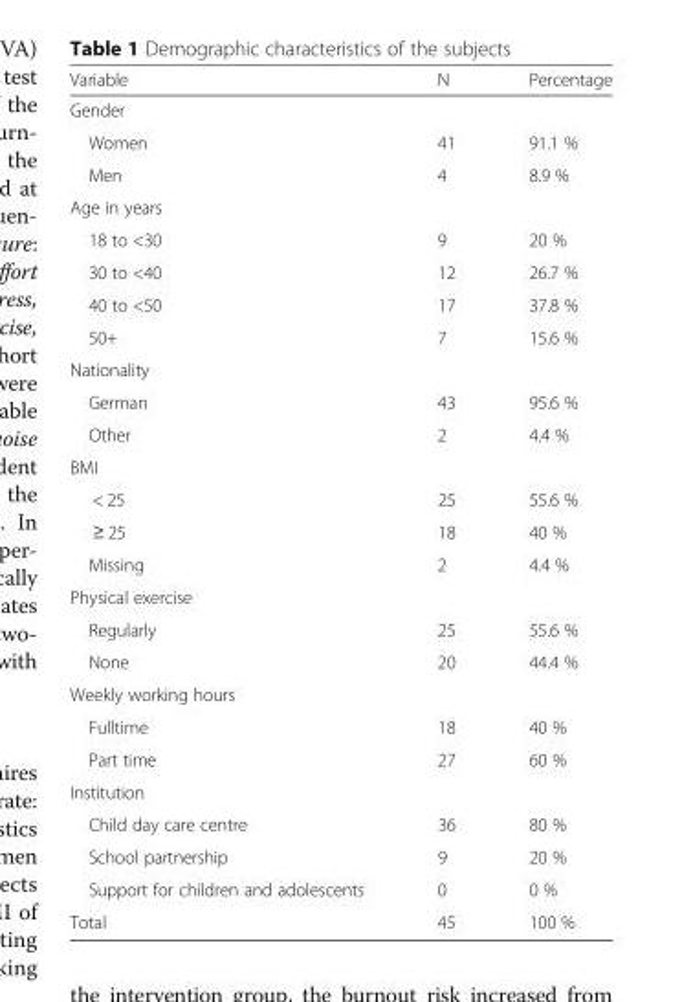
<table><thead><tr><td>Variable</td><td>N</td><td>Percentage</td></tr></thead><tbody><tr><td colspan="3">Gender</td></tr><tr><td>Women</td><td>41</td><td>91.1 %</td></tr><tr><td>Men</td><td>4</td><td>8.9 %</td></tr><tr><td colspan="3">Age in years</td></tr><tr><td>18 to &lt;30</td><td>9</td><td>20 %</td></tr><tr><td>30 to &lt;40</td><td>12</td><td>26.7 %</td></tr><tr><td>40 to &lt;50</td><td>17</td><td>37.8 %</td></tr><tr><td>50+</td><td>7</td><td>15.6 %</td></tr><tr><td colspan="3">Nationality</td></tr><tr><td>German</td><td>43</td><td>95.6 %</td></tr><tr><td>Other</td><td>2</td><td>4.4 %</td></tr><tr><td colspan="3">BMI</td></tr><tr><td>&lt; 25</td><td>25</td><td>55.6 %</td></tr><tr><td>≥ 25</td><td>18</td><td>40 %</td></tr><tr><td>Missing</td><td>2</td><td>4.4 %</td></tr><tr><td colspan="3">Physical exercise</td></tr><tr><td>Regularly</td><td>25</td><td>55.6 %</td></tr><tr><td>None</td><td>20</td><td>44.4 %</td></tr><tr><td colspan="3">Weekly working hours</td></tr><tr><td>Fulltime</td><td>18</td><td>40 %</td></tr><tr><td>Part time</td><td>27</td><td>60 %</td></tr><tr><td colspan="3">Institution</td></tr><tr><td>Child day care centre</td><td>36</td><td>80 %</td></tr><tr><td>School partnership</td><td>9</td><td>20 %</td></tr><tr><td>Support for children and adolescents</td><td>0</td><td>0 %</td></tr><tr><td>Total</td><td>45</td><td>100 %</td></tr></tbody></table>